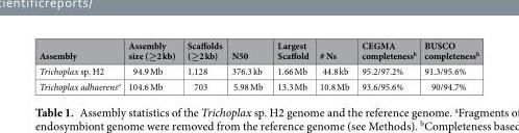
<table><thead><tr><td>Assembly</td><td>Assembly size (≥2 kb)</td><td>Scaffolds (≥2 kb)</td><td>N50</td><td>Largest Scaffold</td><td># Ns</td><td>CEGMA completeness<sup>b</sup></td><td>BUSCO completeness<sup>b</sup></td></tr></thead><tbody><tr><td>Trichoplax sp. H2</td><td>94.9 Mb</td><td>1,128</td><td>376.3 kb</td><td>1.66 Mb</td><td>44.8 kb</td><td>95.2/97.2%</td><td>91.3/95.6%</td></tr><tr><td>Trichoplax adhaerens<sup>a</sup></td><td>104.6 Mb</td><td>703</td><td>5.98 Mb</td><td>13.3 Mb</td><td>10.8 Mb</td><td>93.6/95.6%</td><td>90/94.7%</td></tr></tbody></table>